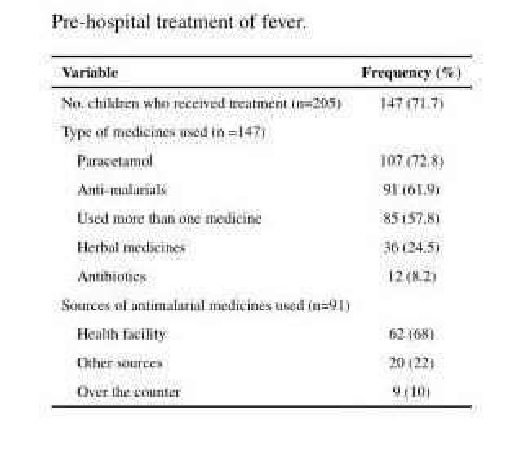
<table><thead><tr><td>Variable</td><td>Frequency (%)</td></tr></thead><tbody><tr><td>No. children who received treatment (n=205)</td><td>147 (71.7)</td></tr><tr><td colspan="2">Type of medicines used (n =147)</td></tr><tr><td>Paracetamol</td><td>107 (72.8)</td></tr><tr><td>Anti-malarials</td><td>91 (61.9)</td></tr><tr><td>Used more than one medicine</td><td>85 (57.8)</td></tr><tr><td>Herbal medicines</td><td>36 (24.5)</td></tr><tr><td>Antibiotics</td><td>12 (8.2)</td></tr><tr><td colspan="2">Sources of antimalarial medicines used (n=91)</td></tr><tr><td>Health facility</td><td>62 (68)</td></tr><tr><td>Other sources</td><td>20 (22)</td></tr><tr><td>Over the counter</td><td>9 (10)</td></tr></tbody></table>